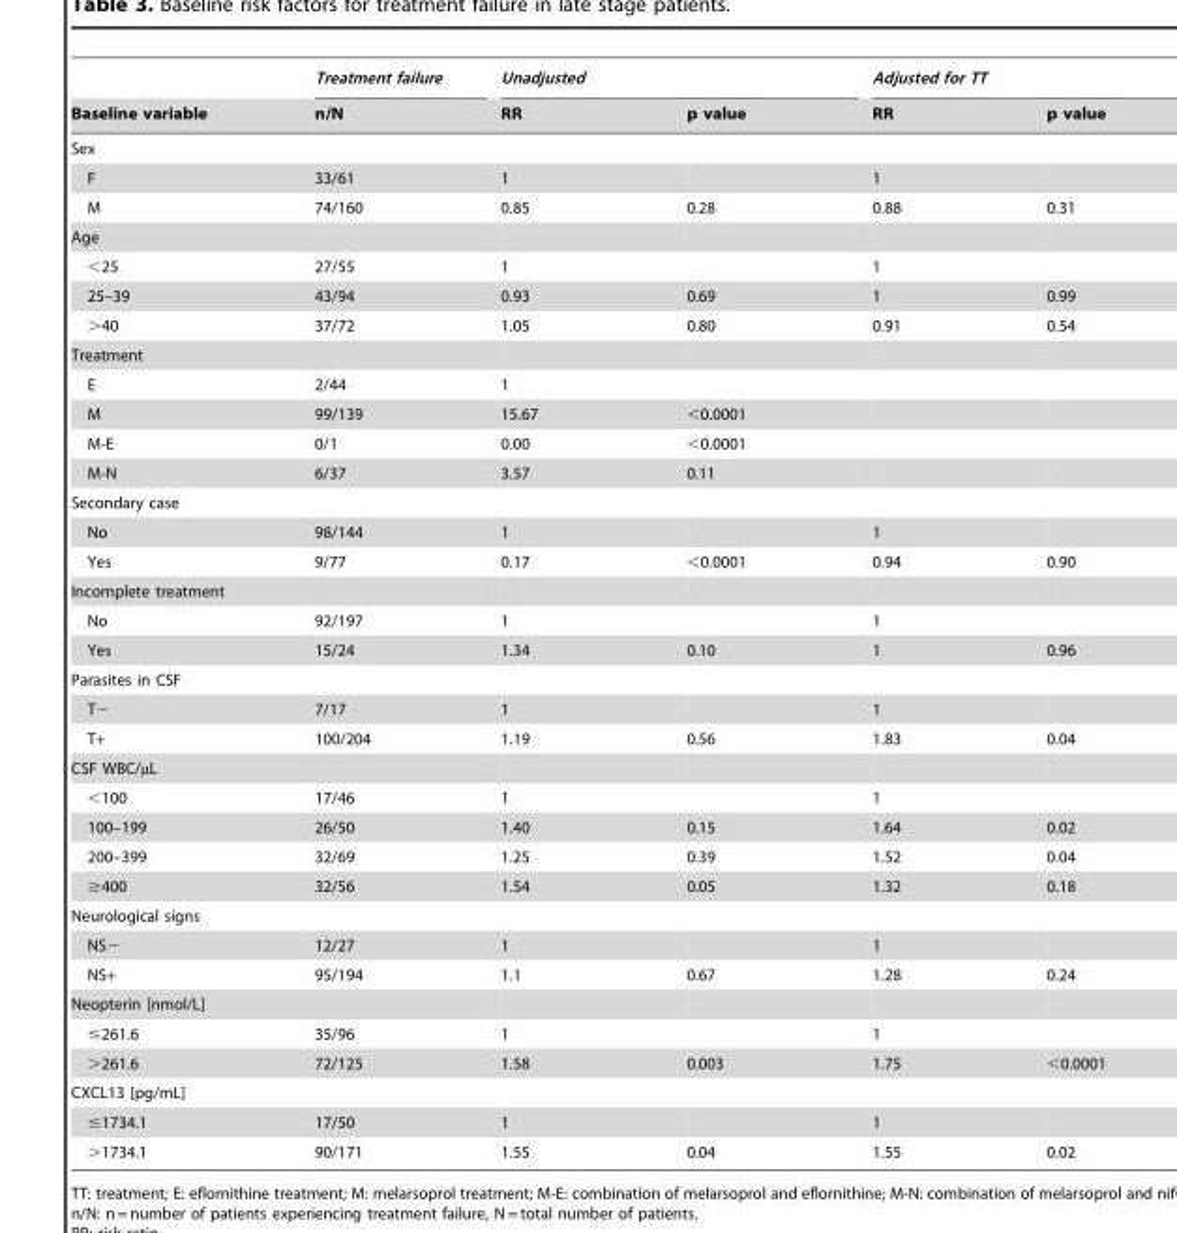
<table><thead><tr><td rowspan="2">Baseline variable</td><td rowspan="2">Treatment failure n/N</td><td colspan="2">Unadjusted</td><td colspan="2">Adjusted for TT</td></tr><tr><td>RR</td><td>p value</td><td>RR</td><td>p value</td></tr></thead><tbody><tr><td colspan="6">Sex</td></tr><tr><td>F</td><td>33/61</td><td>1</td><td></td><td>1</td><td></td></tr><tr><td>M</td><td>74/160</td><td>0.85</td><td>0.28</td><td>0.88</td><td>0.31</td></tr><tr><td colspan="6">Age</td></tr><tr><td>&lt;25</td><td>27/55</td><td>1</td><td></td><td>1</td><td></td></tr><tr><td>25–39</td><td>43/94</td><td>0.93</td><td>0.69</td><td>1</td><td>0.99</td></tr><tr><td>&gt;40</td><td>37/72</td><td>1.05</td><td>0.80</td><td>0.91</td><td>0.54</td></tr><tr><td colspan="6">Treatment</td></tr><tr><td>E</td><td>2/44</td><td>1</td><td></td><td></td><td></td></tr><tr><td>M</td><td>99/139</td><td>15.67</td><td>&lt;0.0001</td><td></td><td></td></tr><tr><td>M-E</td><td>0/1</td><td>0.00</td><td>&lt;0.0001</td><td></td><td></td></tr><tr><td>M-N</td><td>6/37</td><td>3.57</td><td>0.11</td><td></td><td></td></tr><tr><td colspan="6">Secondary case</td></tr><tr><td>No</td><td>98/144</td><td>1</td><td></td><td>1</td><td></td></tr><tr><td>Yes</td><td>9/77</td><td>0.17</td><td>&lt;0.0001</td><td>0.94</td><td>0.90</td></tr><tr><td colspan="6">Incomplete treatment</td></tr><tr><td>No</td><td>92/197</td><td>1</td><td></td><td>1</td><td></td></tr><tr><td>Yes</td><td>15/24</td><td>1.34</td><td>0.10</td><td>1</td><td>0.96</td></tr><tr><td colspan="6">Parasites in CSF</td></tr><tr><td>T−</td><td>7/17</td><td>1</td><td></td><td>1</td><td></td></tr><tr><td>T+</td><td>100/204</td><td>1.19</td><td>0.56</td><td>1.83</td><td>0.04</td></tr><tr><td colspan="6">CSF WBC/µL</td></tr><tr><td>&lt;100</td><td>17/46</td><td>1</td><td></td><td>1</td><td></td></tr><tr><td>100–199</td><td>26/50</td><td>1.40</td><td>0.15</td><td>1.64</td><td>0.02</td></tr><tr><td>200–399</td><td>32/69</td><td>1.25</td><td>0.39</td><td>1.52</td><td>0.04</td></tr><tr><td>≥400</td><td>32/56</td><td>1.54</td><td>0.05</td><td>1.32</td><td>0.18</td></tr><tr><td colspan="6">Neurological signs</td></tr><tr><td>NS−</td><td>12/27</td><td>1</td><td></td><td>1</td><td></td></tr><tr><td>NS+</td><td>95/194</td><td>1.1</td><td>0.67</td><td>1.28</td><td>0.24</td></tr><tr><td colspan="6">Neopterin [nmol/L]</td></tr><tr><td>≤261.6</td><td>35/96</td><td>1</td><td></td><td>1</td><td></td></tr><tr><td>&gt;261.6</td><td>72/125</td><td>1.58</td><td>0.003</td><td>1.75</td><td>&lt;0.0001</td></tr><tr><td colspan="6">CXCL13 [pg/mL]</td></tr><tr><td>≤1734.1</td><td>17/50</td><td>1</td><td></td><td>1</td><td></td></tr><tr><td>&gt;1734.1</td><td>90/171</td><td>1.55</td><td>0.04</td><td>1.55</td><td>0.02</td></tr></tbody></table>